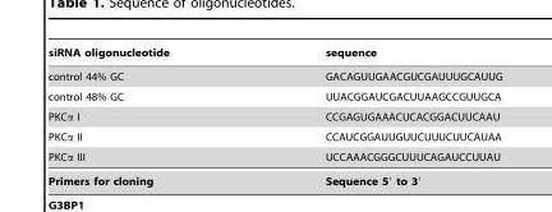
<table><thead><tr><td>siRNA oligonucleotide</td><td>sequence</td></tr></thead><tbody><tr><td>control 44% GC</td><td>GACAGUUGAACGUCGAUUUGCAUUG</td></tr><tr><td>control 48% GC</td><td>UUACGGAUCGACUUAAGCCGUUGCA</td></tr><tr><td>PKCα I</td><td>CCGAGUGAAACUCACGGACUUCAAU</td></tr><tr><td>PKCα II</td><td>CCAUCGGAUUGUUCUUUCUUCAUAA</td></tr><tr><td>PKCα III</td><td>UCCAAACGGGCUUUCAGAUCCUUAU</td></tr></tbody></table>